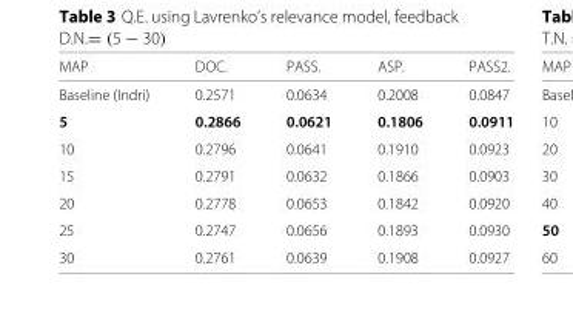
<table><thead><tr><td>MAP</td><td>DOC.</td><td>PASS.</td><td>ASP.</td><td>PASS2.</td></tr></thead><tbody><tr><td>Baseline (Indri)</td><td>0.2571</td><td>0.0634</td><td>0.2008</td><td>0.0847</td></tr><tr><td>5</td><td>0.2866</td><td>0.0621</td><td>0.1806</td><td>0.0911</td></tr><tr><td>10</td><td>0.2796</td><td>0.0641</td><td>0.1910</td><td>0.0923</td></tr><tr><td>15</td><td>0.2791</td><td>0.0632</td><td>0.1866</td><td>0.0903</td></tr><tr><td>20</td><td>0.2778</td><td>0.0653</td><td>0.1842</td><td>0.0920</td></tr><tr><td>25</td><td>0.2747</td><td>0.0656</td><td>0.1893</td><td>0.0930</td></tr><tr><td>30</td><td>0.2761</td><td>0.0639</td><td>0.1908</td><td>0.0927</td></tr></tbody></table>